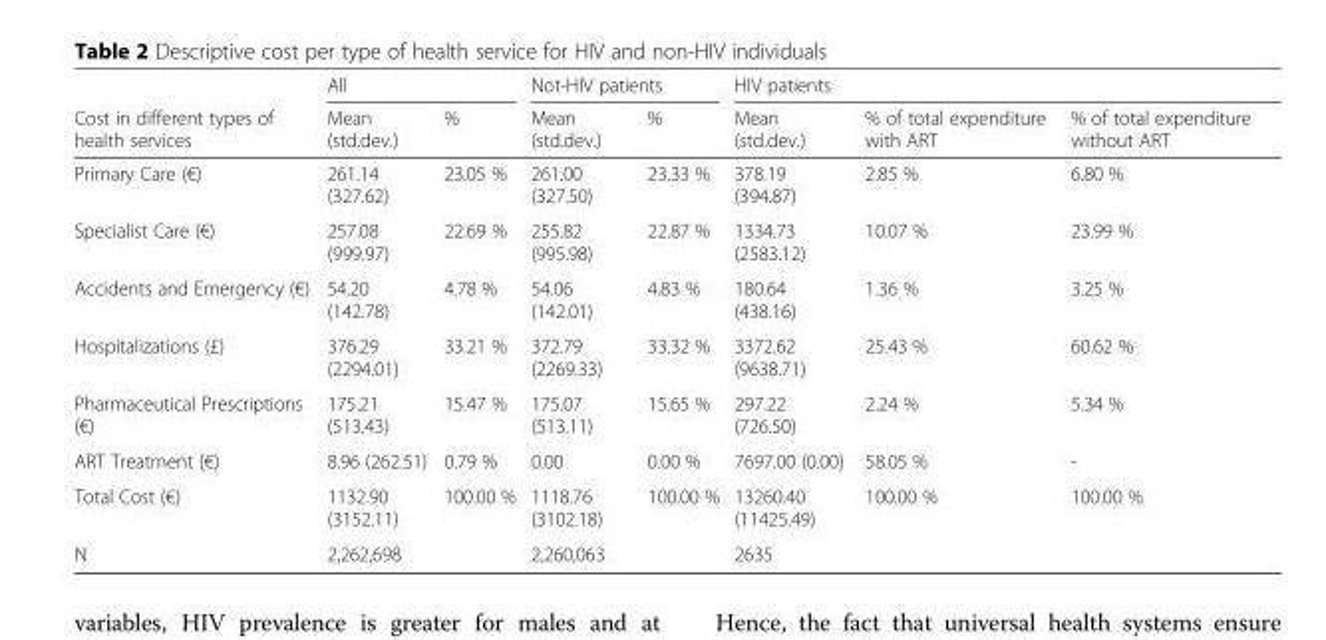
<table><thead><tr><td rowspan="2">Cost in different types of health services</td><td colspan="2">All</td><td colspan="2">Not-HIV patients</td><td colspan="3">HIV patients</td></tr><tr><td>Mean (std.dev.)</td><td>%</td><td>Mean (std.dev.)</td><td>%</td><td>Mean (std.dev.)</td><td>% of total expenditure with ART</td><td>% of total expenditure without ART</td></tr></thead><tbody><tr><td>Primary Care (€)</td><td>261.14 (327.62)</td><td>23.05 %</td><td>261.00 (327.50)</td><td>23.33 %</td><td>378.19 (394.87)</td><td>2.85 %</td><td>6.80 %</td></tr><tr><td>Specialist Care (€)</td><td>257.08 (999.97)</td><td>22.69 %</td><td>255.82 (995.98)</td><td>22.87 %</td><td>1334.73 (2583.12)</td><td>10.07 %</td><td>23.99 %</td></tr><tr><td>Accidents and Emergency (€)</td><td>54.20 (142.78)</td><td>4.78 %</td><td>54.06 (142.01)</td><td>4.83 %</td><td>180.64 (438.16)</td><td>1.36 %</td><td>3.25 %</td></tr><tr><td>Hospitalizations (£)</td><td>376.29 (2294.01)</td><td>33.21 %</td><td>372.79 (2269.33)</td><td>33.32 %</td><td>3372.62 (9638.71)</td><td>25.43 %</td><td>60.62 %</td></tr><tr><td>Pharmaceutical Prescriptions (€)</td><td>175.21 (513.43)</td><td>15.47 %</td><td>175.07 (513.11)</td><td>15.65 %</td><td>297.22 (726.50)</td><td>2.24 %</td><td>5.34 %</td></tr><tr><td>ART Treatment {€)</td><td>8.96 (262.51)</td><td>0.79 %</td><td>0.00</td><td>0.00 %</td><td>7697.00 (0.00)</td><td>58.05 %</td><td>-</td></tr><tr><td>Total Cost (€)</td><td>1132.90 (3152.11)</td><td>100.00 %</td><td>1118.76 (3102.18)</td><td>100.00 %</td><td>13260.40 (11425.49)</td><td>100.00 %</td><td>100.00 %</td></tr><tr><td>N</td><td colspan="2">2,262,698</td><td colspan="2">2,260,063</td><td colspan="3">2635</td></tr></tbody></table>